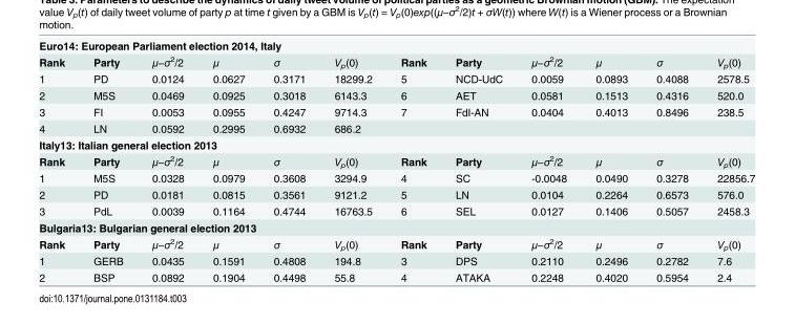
<table><tbody><tr><td colspan="12">Euro14: European Parliament election 2014, Italy</td></tr><tr><td>Rank</td><td>Party</td><td>μ−σ<sup>2</sup>/2</td><td>μ</td><td>σ</td><td>V<sub>p</sub>(0)</td><td>Rank</td><td>Party</td><td>μ−σ<sup>2</sup>/2</td><td>μ</td><td>σ</td><td>V<sub>p</sub>(0)</td></tr><tr><td>1</td><td>PD</td><td>0.0124</td><td>0.0627</td><td>0.3171</td><td>18299.2</td><td>5</td><td>NCD-UdC</td><td>0.0059</td><td>0.0893</td><td>0.4088</td><td>2578.5</td></tr><tr><td>2</td><td>M5S</td><td>0.0469</td><td>0.0925</td><td>0.3018</td><td>6143.3</td><td>6</td><td>AET</td><td>0.0581</td><td>0.1513</td><td>0.4316</td><td>520.0</td></tr><tr><td>3</td><td>FI</td><td>0.0053</td><td>0.0955</td><td>0.4247</td><td>9714.3</td><td>7</td><td>FdI-AN</td><td>0.0404</td><td>0.4013</td><td>0.8496</td><td>238.5</td></tr><tr><td>4</td><td>LN</td><td>0.0592</td><td>0.2995</td><td>0.6932</td><td>686.2</td><td></td><td></td><td></td><td></td><td></td><td></td></tr><tr><td colspan="12">Italy13: Italian general election 2013</td></tr><tr><td>Rank</td><td>Party</td><td>μ−σ<sup>2</sup>/2</td><td>μ</td><td>σ</td><td>V<sub>p</sub>(0)</td><td>Rank</td><td>Party</td><td>μ−σ<sup>2</sup>/2</td><td>μ</td><td>σ</td><td>V<sub>p</sub>(0)</td></tr><tr><td>1</td><td>M5S</td><td>0.0328</td><td>0.0979</td><td>0.3608</td><td>3294.9</td><td>4</td><td>SC</td><td>-0.0048</td><td>0.0490</td><td>0.3278</td><td>22856.7</td></tr><tr><td>2</td><td>PD</td><td>0.0181</td><td>0.0815</td><td>0.3561</td><td>9121.2</td><td>5</td><td>LN</td><td>0.0104</td><td>0.2264</td><td>0.6573</td><td>576.0</td></tr><tr><td>3</td><td>PdL</td><td>0.0039</td><td>0.1164</td><td>0.4744</td><td>16763.5</td><td>6</td><td>SEL</td><td>0.0127</td><td>0.1406</td><td>0.5057</td><td>2458.3</td></tr><tr><td colspan="12">Bulgaria13: Bulgarian general election 2013</td></tr><tr><td>Rank</td><td>Party</td><td>μ−σ<sup>2</sup>/2</td><td>μ</td><td>σ</td><td>V<sub>p</sub>(0)</td><td>Rank</td><td>Party</td><td>μ−σ<sup>2</sup>/2</td><td>μ</td><td>σ</td><td>V<sub>p</sub>(0)</td></tr><tr><td>1</td><td>GERB</td><td>0.0435</td><td>0.1591</td><td>0.4808</td><td>194.8</td><td>3</td><td>DPS</td><td>0.2110</td><td>0.2496</td><td>0.2782</td><td>7.6</td></tr><tr><td>2</td><td>BSP</td><td>0.0892</td><td>0.1904</td><td>0.4498</td><td>55.8</td><td>4</td><td>ATAKA</td><td>0.2248</td><td>0.4020</td><td>0.5954</td><td>2.4</td></tr></tbody></table>